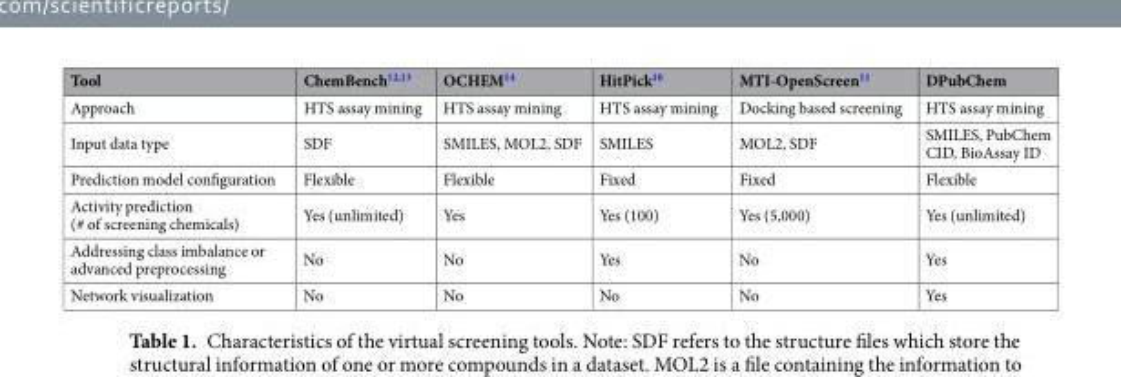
<table><thead><tr><td>Tool</td><td>ChemBench<sup>12,13</sup></td><td>OCHEM<sup>14</sup></td><td>HitPick<sup>10</sup></td><td>MTI-OpenScreen<sup>11</sup></td><td>DPubChem</td></tr></thead><tbody><tr><td>Approach</td><td>HTS assay mining</td><td>HTS assay mining</td><td>HTS assay mining</td><td>Docking based screening</td><td>HTS assay mining</td></tr><tr><td>Input data type</td><td>SDF</td><td>SMILES, MOL2, SDF</td><td>SMILES</td><td>MOL2, SDF</td><td>SMILES, PubChem CID, BioAssay ID</td></tr><tr><td>Prediction model configuration</td><td>Flexible</td><td>Flexible</td><td>Fixed</td><td>Fixed</td><td>Flexible</td></tr><tr><td>Activity prediction (# of screening chemicals)</td><td>Yes (unlimited)</td><td>Yes</td><td>Yes (100)</td><td>Yes (5,000)</td><td>Yes (unlimited)</td></tr><tr><td>Addressing class imbalance or advanced preprocessing</td><td>No</td><td>No</td><td>Yes</td><td>No</td><td>Yes</td></tr><tr><td>Network visualization</td><td>No</td><td>No</td><td>No</td><td>No</td><td>Yes</td></tr></tbody></table>